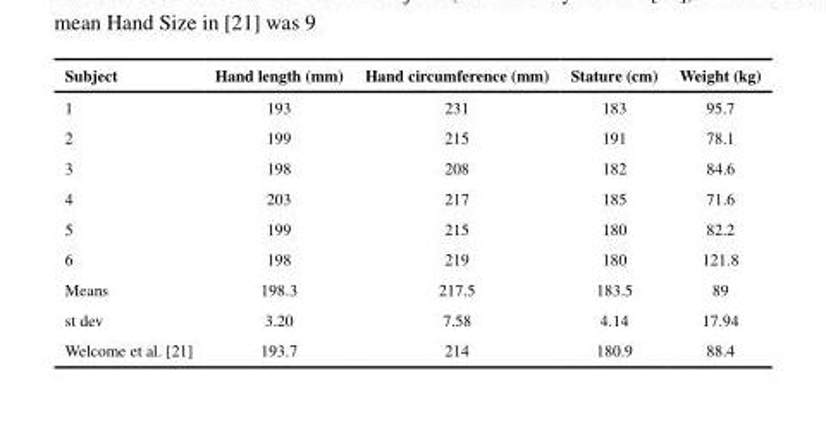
<table><thead><tr><td>Subject</td><td>Hand length (mm)</td><td>Hand circumference (mm)</td><td>Stature (cm)</td><td>Weight (kg)</td></tr></thead><tbody><tr><td>1</td><td>193</td><td>231</td><td>183</td><td>95.7</td></tr><tr><td>2</td><td>199</td><td>215</td><td>191</td><td>78.1</td></tr><tr><td>3</td><td>198</td><td>208</td><td>182</td><td>84.6</td></tr><tr><td>4</td><td>203</td><td>217</td><td>185</td><td>71.6</td></tr><tr><td>5</td><td>199</td><td>215</td><td>180</td><td>82.2</td></tr><tr><td>6</td><td>198</td><td>219</td><td>180</td><td>121.8</td></tr><tr><td>Means</td><td>198.3</td><td>217.5</td><td>183.5</td><td>89</td></tr><tr><td>st dev</td><td>3.20</td><td>7.58</td><td>4.14</td><td>17.94</td></tr><tr><td>Welcome et al. [21]</td><td>193.7</td><td>214</td><td>180.9</td><td>88.4</td></tr></tbody></table>